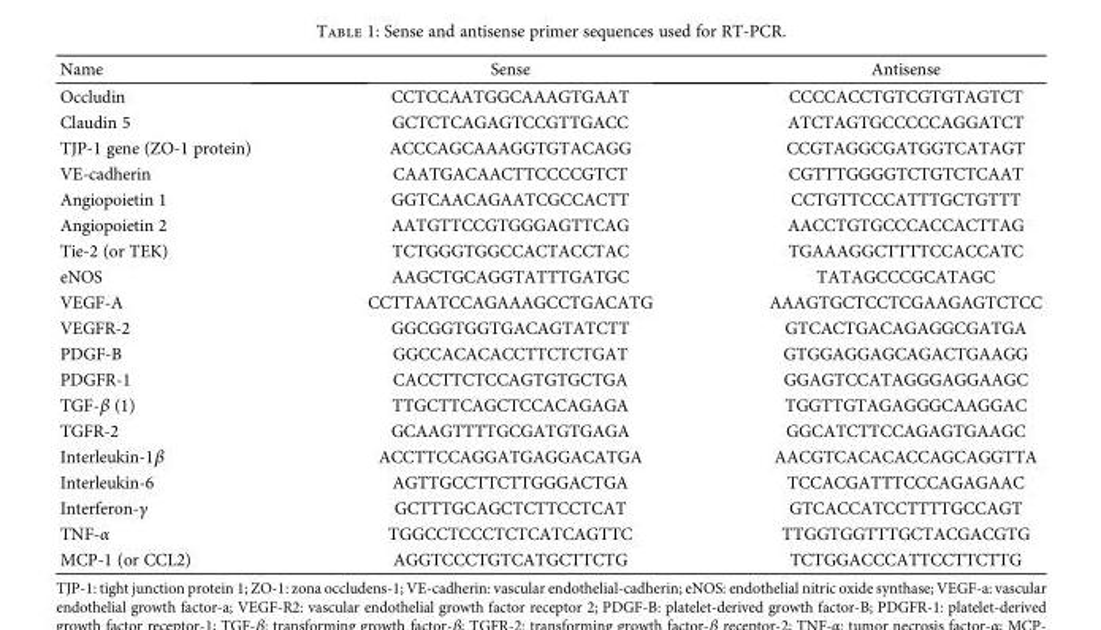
<table><thead><tr><td>Name</td><td>Sense</td><td>Antisense</td></tr></thead><tbody><tr><td>Occludin</td><td>CCTCCAATGGCAAAGTGAAT</td><td>CCCCACCTGTCGTGTAGTCT</td></tr><tr><td>Claudin 5</td><td>GCTCTCAGAGTCCGTTGACC</td><td>ATCTAGTGCCCCCAGGATCT</td></tr><tr><td>TJP-1 gene (ZO-1 protein)</td><td>ACCCAGCAAAGGTGTACAGG</td><td>CCGTAGGCGATGGTCATAGT</td></tr><tr><td>VE-cadherin</td><td>CAATGACAACTTCCCCGTCT</td><td>CGTTTGGGGTCTGTCTCAAT</td></tr><tr><td>Angiopoietin 1</td><td>GGTCAACAGAATCGCCACTT</td><td>CCTGTTCCCATTTGCTGTTT</td></tr><tr><td>Angiopoietin 2</td><td>AATGTTCCGTGGGAGTTCAG</td><td>AACCTGTGCCCACCACTTAG</td></tr><tr><td>Tie-2 (or TEK)</td><td>TCTGGGTGGCCACTACCTAC</td><td>TGAAAGGCTTTTCCACCATC</td></tr><tr><td>eNOS</td><td>AAGCTGCAGGTATTTGATGC</td><td>TATAGCCCGCATAGC</td></tr><tr><td>VEGF-A</td><td>CCTTAATCCAGAAAGCCTGACATG</td><td>AAAGTGCTCCTCGAAGAGTCTCC</td></tr><tr><td>VEGFR-2</td><td>GGCGGTGGTGACAGTATCTT</td><td>GTCACTGACAGAGGCGATGA</td></tr><tr><td>PDGF-B</td><td>GGCCACACACCTTCTCTGAT</td><td>GTGGAGGAGCAGACTGAAGG</td></tr><tr><td>PDGFR-1</td><td>CACCTTCTCCAGTGTGCTGA</td><td>GGAGTCCATAGGGAGGAAGC</td></tr><tr><td>TGF-β (1)</td><td>TTGCTTCAGCTCCACAGAGA</td><td>TGGTTGTAGAGGGCAAGGAC</td></tr><tr><td>TGFR-2</td><td>GCAAGTTTTGCGATGTGAGA</td><td>GGCATCTTCCAGAGTGAAGC</td></tr><tr><td>Interleukin-1β</td><td>ACCTTCCAGGATGAGGACATGA</td><td>AACGTCACACACCAGCAGGTTA</td></tr><tr><td>Interleukin-6</td><td>AGTTGCCTTCTTGGGACTGA</td><td>TCCACGATTTCCCAGAGAAC</td></tr><tr><td>Interferon-γ</td><td>GCTTTGCAGCTCTTCCTCAT</td><td>GTCACCATCCTTTTGCCAGT</td></tr><tr><td>TNF-α</td><td>TGGCCTCCCTCTCATCAGTTC</td><td>TTGGTGGTTTGCTACGACGTG</td></tr><tr><td>MCP-1 (or CCL2)</td><td>AGGTCCCTGTCATGCTTCTG</td><td>TCTGGACCCATTCCTTCTTG</td></tr></tbody></table>